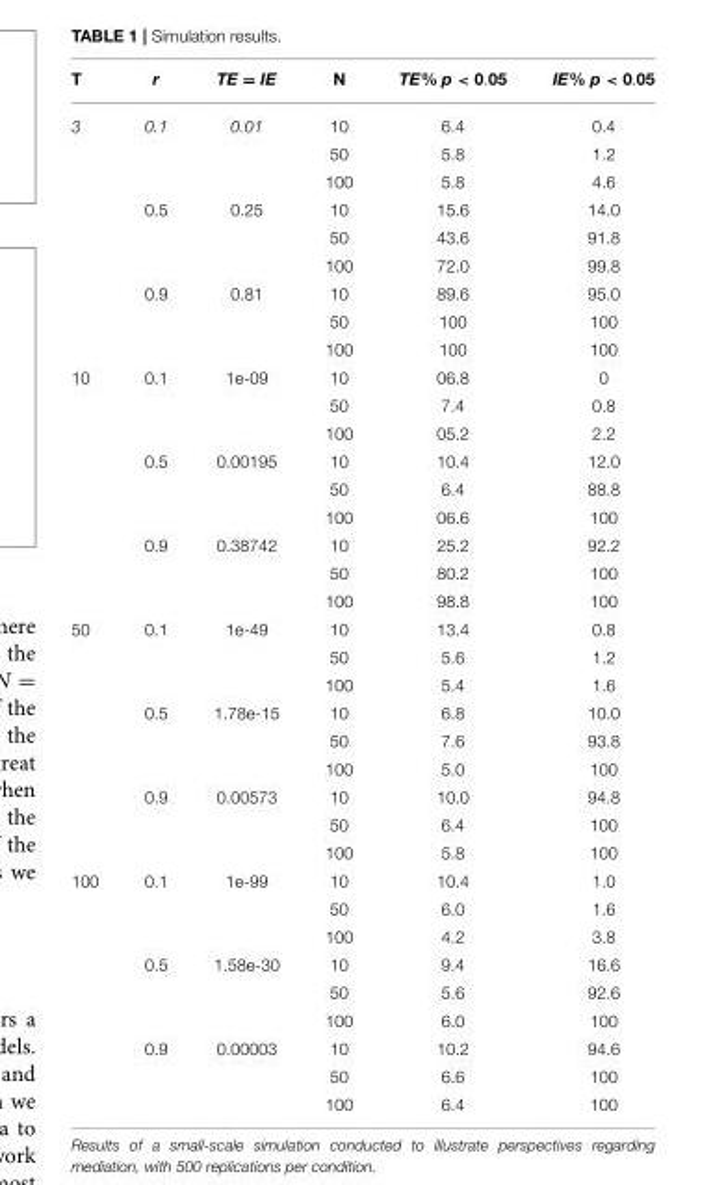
<table><thead><tr><td>T</td><td>r</td><td>TE = IE</td><td>N</td><td>TE% p &lt; 0.05</td><td>IE% p &lt; 0.05</td></tr></thead><tbody><tr><td rowspan="9">3</td><td>0.1</td><td>0.01</td><td>10</td><td>6.4</td><td>0.4</td></tr><tr><td></td><td></td><td>50</td><td>5.8</td><td>1.2</td></tr><tr><td></td><td></td><td>100</td><td>5.8</td><td>4.6</td></tr><tr><td>0.5</td><td>0.25</td><td>10</td><td>15.6</td><td>14.0</td></tr><tr><td></td><td></td><td>50</td><td>43.6</td><td>91.8</td></tr><tr><td></td><td></td><td>100</td><td>72.0</td><td>99.8</td></tr><tr><td>0.9</td><td>0.81</td><td>10</td><td>89.6</td><td>95.0</td></tr><tr><td></td><td></td><td>50</td><td>100</td><td>100</td></tr><tr><td></td><td></td><td>100</td><td>100</td><td>100</td></tr><tr><td rowspan="9">10</td><td>0.1</td><td>1e-09</td><td>10</td><td>06.8</td><td>0</td></tr><tr><td></td><td></td><td>50</td><td>7.4</td><td>0.8</td></tr><tr><td></td><td></td><td>100</td><td>05.2</td><td>2.2</td></tr><tr><td>0.5</td><td>0.00195</td><td>10</td><td>10.4</td><td>12.0</td></tr><tr><td></td><td></td><td>50</td><td>6.4</td><td>88.8</td></tr><tr><td></td><td></td><td>100</td><td>06.6</td><td>100</td></tr><tr><td>0.9</td><td>0.38742</td><td>10</td><td>25.2</td><td>92.2</td></tr><tr><td></td><td></td><td>50</td><td>80.2</td><td>100</td></tr><tr><td></td><td></td><td>100</td><td>98.8</td><td>100</td></tr><tr><td rowspan="9">50</td><td>0.1</td><td>1e-49</td><td>10</td><td>13.4</td><td>0.8</td></tr><tr><td></td><td></td><td>50</td><td>5.6</td><td>1.2</td></tr><tr><td></td><td></td><td>100</td><td>5.4</td><td>1.6</td></tr><tr><td>0.5</td><td>1.78e-15</td><td>10</td><td>6.8</td><td>10.0</td></tr><tr><td></td><td></td><td>50</td><td>7.6</td><td>93.8</td></tr><tr><td></td><td></td><td>100</td><td>5.0</td><td>100</td></tr><tr><td>0.9</td><td>0.00573</td><td>10</td><td>10.0</td><td>94.8</td></tr><tr><td></td><td></td><td>50</td><td>6.4</td><td>100</td></tr><tr><td></td><td></td><td>100</td><td>5.8</td><td>100</td></tr><tr><td rowspan="9">100</td><td>0.1</td><td>1e-99</td><td>10</td><td>10.4</td><td>1.0</td></tr><tr><td></td><td></td><td>50</td><td>6.0</td><td>1.6</td></tr><tr><td></td><td></td><td>100</td><td>4.2</td><td>3.8</td></tr><tr><td>0.5</td><td>1.58e-30</td><td>10</td><td>9.4</td><td>16.6</td></tr><tr><td></td><td></td><td>50</td><td>5.6</td><td>92.6</td></tr><tr><td></td><td></td><td>100</td><td>6.0</td><td>100</td></tr><tr><td>0.9</td><td>0.00003</td><td>10</td><td>10.2</td><td>94.6</td></tr><tr><td></td><td></td><td>50</td><td>6.6</td><td>100</td></tr><tr><td></td><td></td><td>100</td><td>6.4</td><td>100</td></tr></tbody></table>